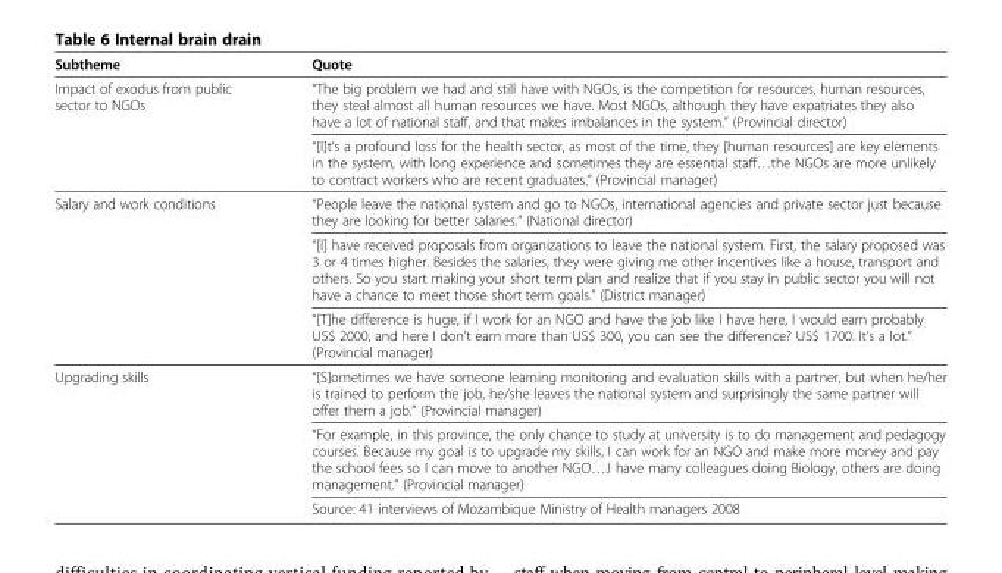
<table><thead><tr><td>Subtheme</td><td>Quote</td></tr></thead><tbody><tr><td rowspan="2">Impact of exodus from public sector to NGOs</td><td>“The big problem we had and still have with NGOs, is the competition for resources, human resources, they steal almost all human resources we have. Most NGOs, although they have expatriates they also have a lot of national staff, and that makes imbalances in the system.” (Provincial director)</td></tr><tr><td>“[I]t’s a profound loss for the health sector, as most of the time, they [human resources] are key elements in the system, with long experience and sometimes they are essential staff…the NGOs are more unlikely to contract workers who are recent graduates.” (Provincial manager)</td></tr><tr><td rowspan="3">Salary and work conditions</td><td>“People leave the national system and go to NGOs, international agencies and private sector just because they are looking for better salaries.” (National director)</td></tr><tr><td>“[I] have received proposals from organizations to leave the national system. First, the salary proposed was 3 or 4 times higher. Besides the salaries, they were giving me other incentives like a house, transport and others. So you start making your short term plan and realize that if you stay in public sector you will not have a chance to meet those short term goals.” (District manager)</td></tr><tr><td>“[T]he difference is huge, if I work for an NGO and have the job like I have here, I would earn probably US$ 2000, and here I don’t earn more than US$ 300, you can see the difference? US$ 1700. It’s a lot.” (Provincial manager)</td></tr><tr><td rowspan="3">Upgrading skills</td><td>“[S]ometimes we have someone learning monitoring and evaluation skills with a partner, but when he/her is trained to perform the job, he/she leaves the national system and surprisingly the same partner will offer them a job.” (Provincial manager)</td></tr><tr><td>“For example, in this province, the only chance to study at university is to do management and pedagogy courses. Because my goal is to upgrade my skills, I can work for an NGO and make more money and pay the school fees so I can move to another NGO….I have many colleagues doing Biology, others are doing management.” (Provincial manager)</td></tr><tr><td>Source: 41 interviews of Mozambique Ministry of Health managers 2008</td></tr></tbody></table>